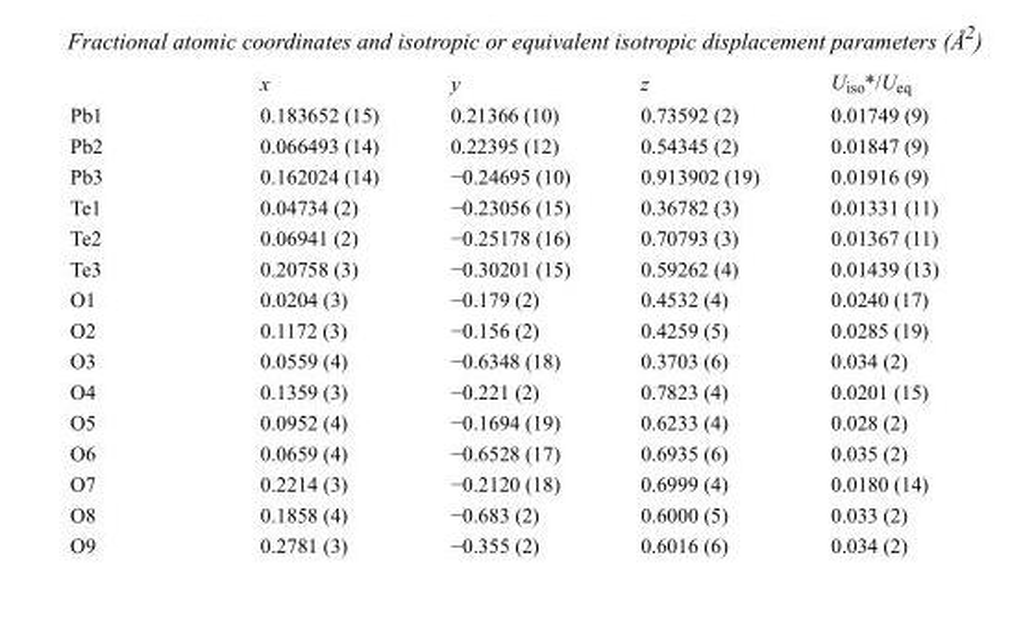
<table><thead><tr><td></td><td>x</td><td>y</td><td>z</td><td>U<sub>iso</sub>*/U<sub>eq</sub></td></tr></thead><tbody><tr><td>Pb1</td><td>0.183652 (15)</td><td>0.21366 (10)</td><td>0.73592 (2)</td><td>0.01749 (9)</td></tr><tr><td>Pb2</td><td>0.066493 (14)</td><td>0.22395 (12)</td><td>0.54345 (2)</td><td>0.01847 (9)</td></tr><tr><td>Pb3</td><td>0.162024 (14)</td><td>−0.24695 (10)</td><td>0.913902 (19)</td><td>0.01916 (9)</td></tr><tr><td>Te1</td><td>0.04734 (2)</td><td>−0.23056 (15)</td><td>0.36782 (3)</td><td>0.01331 (11)</td></tr><tr><td>Te2</td><td>0.06941 (2)</td><td>−0.25178 (16)</td><td>0.70793 (3)</td><td>0.01367 (11)</td></tr><tr><td>Te3</td><td>0.20758 (3)</td><td>−0.30201 (15)</td><td>0.59262 (4)</td><td>0.01439 (13)</td></tr><tr><td>O1</td><td>0.0204 (3)</td><td>−0.179 (2)</td><td>0.4532 (4)</td><td>0.0240 (17)</td></tr><tr><td>O2</td><td>0.1172 (3)</td><td>−0.156 (2)</td><td>0.4259 (5)</td><td>0.0285 (19)</td></tr><tr><td>O3</td><td>0.0559 (4)</td><td>−0.6348 (18)</td><td>0.3703 (6)</td><td>0.034 (2)</td></tr><tr><td>O4</td><td>0.1359 (3)</td><td>−0.221 (2)</td><td>0.7823 (4)</td><td>0.0201 (15)</td></tr><tr><td>O5</td><td>0.0952 (4)</td><td>−0.1694 (19)</td><td>0.6233 (4)</td><td>0.028 (2)</td></tr><tr><td>O6</td><td>0.0659 (4)</td><td>−0.6528 (17)</td><td>0.6935 (6)</td><td>0.035 (2)</td></tr><tr><td>O7</td><td>0.2214 (3)</td><td>−0.2120 (18)</td><td>0.6999 (4)</td><td>0.0180 (14)</td></tr><tr><td>O8</td><td>0.1858 (4)</td><td>−0.683 (2)</td><td>0.6000 (5)</td><td>0.033 (2)</td></tr><tr><td>O9</td><td>0.2781 (3)</td><td>−0.355 (2)</td><td>0.6016 (6)</td><td>0.034 (2)</td></tr></tbody></table>